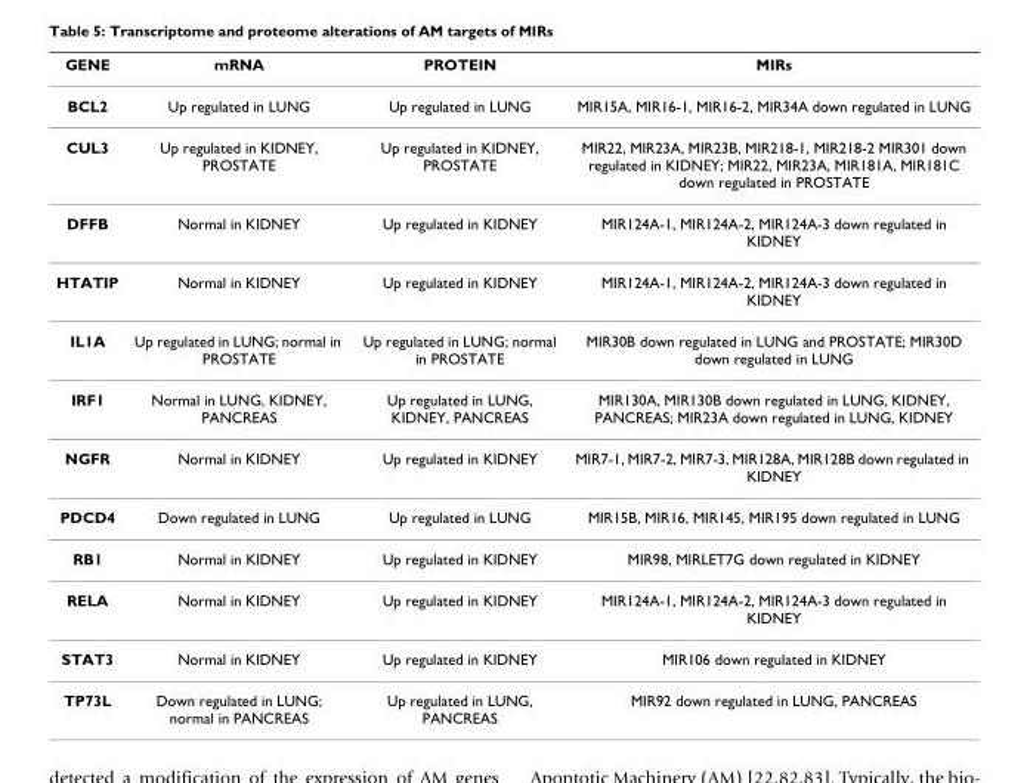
<table><thead><tr><td>GENE</td><td>mRNA</td><td>PROTEIN</td><td>MIRs</td></tr></thead><tbody><tr><td>BCL2</td><td>Up regulated in LUNG</td><td>Up regulated in LUNG</td><td>MIR15A, MIR16-1, MIR16-2, MIR34A down regulated in LUNG</td></tr><tr><td>CUL3</td><td>Up regulated in KIDNEY, PROSTATE</td><td>Up regulated in KIDNEY, PROSTATE</td><td>MIR22, MIR23A, MIR23B, MIR218-1, MIR218-2 MIR301 down regulated in KIDNEY; MIR22, MIR23A, MIR181A, MIR181C down regulated in PROSTATE</td></tr><tr><td>DFFB</td><td>Normal in KIDNEY</td><td>Up regulated in KIDNEY</td><td>MIR124A-1, MIR124A-2, MIR124A-3 down regulated in KIDNEY</td></tr><tr><td>HTATIP</td><td>Normal in KIDNEY</td><td>Up regulated in KIDNEY</td><td>MIR124A-1, MIR124A-2, MIR124A-3 down regulated in KIDNEY</td></tr><tr><td>IL1A</td><td>Up regulated in LUNG; normal in PROSTATE</td><td>Up regulated in LUNG; normal in PROSTATE</td><td>MIR30B down regulated in LUNG and PROSTATE; MIR30D down regulated in LUNG</td></tr><tr><td>IRF1</td><td>Normal in LUNG, KIDNEY, PANCREAS</td><td>Up regulated in LUNG, KIDNEY, PANCREAS</td><td>MIR130A, MIR130B down regulated in LUNG, KIDNEY, PANCREAS; MIR23A down regulated in LUNG, KIDNEY</td></tr><tr><td>NGFR</td><td>Normal in KIDNEY</td><td>Up regulated in KIDNEY</td><td>MIR7-1, MIR7-2, MIR7-3, MIR128A, MIR128B down regulated in KIDNEY</td></tr><tr><td>PDCD4</td><td>Down regulated in LUNG</td><td>Up regulated in LUNG</td><td>MIR15B, MIR16, MIR145, MIR195 down regulated in LUNG</td></tr><tr><td>RB1</td><td>Normal in KIDNEY</td><td>Up regulated in KIDNEY</td><td>MIR98, MIRLET7G down regulated in KIDNEY</td></tr><tr><td>RELA</td><td>Normal in KIDNEY</td><td>Up regulated in KIDNEY</td><td>MIR124A-1, MIR124A-2, MIR124A-3 down regulated in KIDNEY</td></tr><tr><td>STAT3</td><td>Normal in KIDNEY</td><td>Up regulated in KIDNEY</td><td>MIR106 down regulated in KIDNEY</td></tr><tr><td>TP73L</td><td>Down regulated in LUNG; normal in PANCREAS</td><td>Up regulated in LUNG, PANCREAS</td><td>MIR92 down regulated in LUNG, PANCREAS</td></tr></tbody></table>